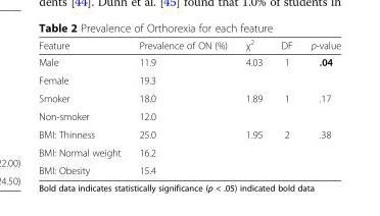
<table><thead><tr><td>Feature</td><td>Prevalence of ON (%)</td><td>χ<sup>2</sup></td><td>DF</td><td>p-value</td></tr></thead><tbody><tr><td>Male</td><td>11.9</td><td rowspan="2">4.03</td><td rowspan="2">1</td><td rowspan="2">.04</td></tr><tr><td>Female</td><td>19.3</td></tr><tr><td>Smoker</td><td>18.0</td><td rowspan="2">1.89</td><td rowspan="2">1</td><td rowspan="2">.17</td></tr><tr><td>Non-smoker</td><td>12.0</td></tr><tr><td>BMI: Thinness</td><td>25.0</td><td rowspan="3">1.95</td><td rowspan="3">2</td><td rowspan="3">.38</td></tr><tr><td>BMI: Normal weight</td><td>16.2</td></tr><tr><td>BMI: Obesity</td><td>15.4</td></tr></tbody></table>